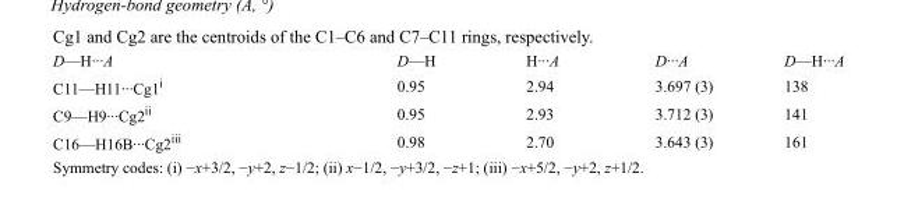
<table><tbody><tr><td>D—H···A</td><td>D—H</td><td>H···A</td><td>D···A</td><td>D—H···A</td></tr><tr><td>C11—H11···Cg1<sup>i</sup></td><td>0.95</td><td>2.94</td><td>3.697 (3)</td><td>138</td></tr><tr><td>C9—H9···Cg2<sup>ii</sup></td><td>0.95</td><td>2.93</td><td>3.712 (3)</td><td>141</td></tr><tr><td>C16—H16B···Cg2<sup>iii</sup></td><td>0.98</td><td>2.70</td><td>3.643 (3)</td><td>161</td></tr></tbody></table>